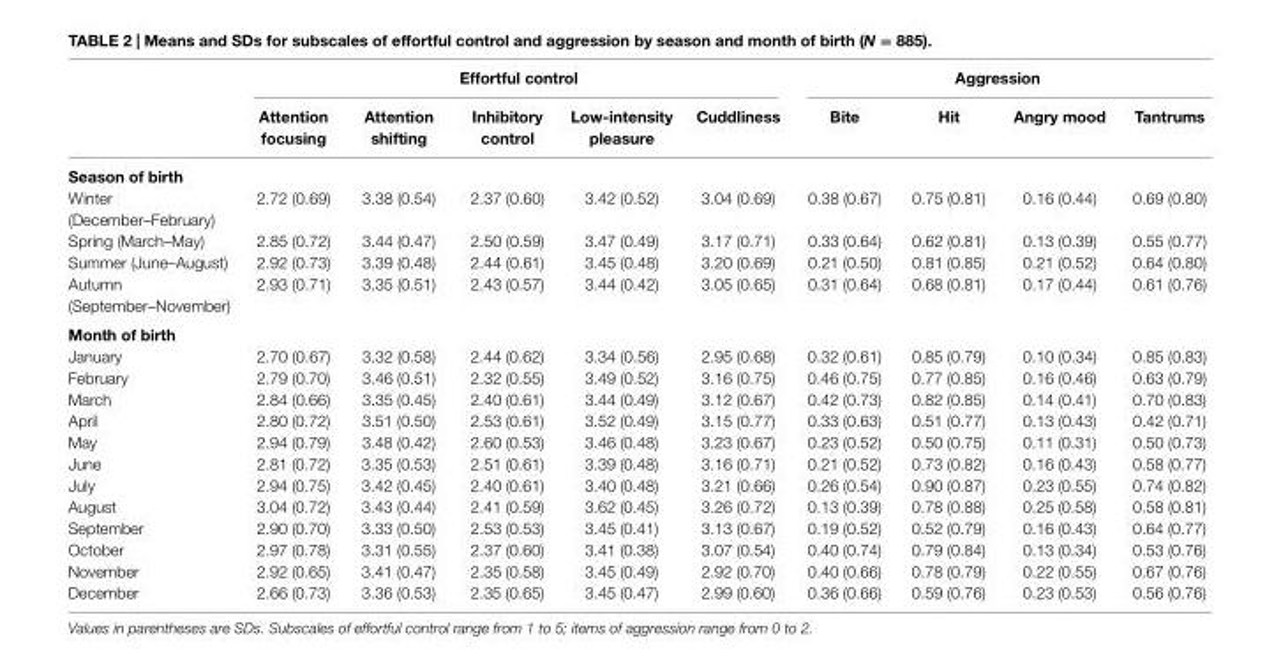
<table><thead><tr><td rowspan="2"></td><td colspan="5">effortful control</td><td colspan="4">aggression</td></tr><tr><td>attention focusing</td><td>attention shifting</td><td>inhibitory control</td><td>low-intensity pleasure</td><td>cuddliness</td><td>Bite</td><td>hit</td><td>angry mood</td><td>Tantrums</td></tr></thead><tbody><tr><td colspan="10">season of birth</td></tr><tr><td>Winter (December–February)</td><td>2.72 (0.69)</td><td>3.38 (0.54)</td><td>2.37 (0.60)</td><td>3.42 (0.52)</td><td>3.04 (0.69)</td><td>0.38 (0.67)</td><td>0.75 (0.81)</td><td>0.16 (0.44)</td><td>0.69 (0.80)</td></tr><tr><td>Spring (March–May)</td><td>2.85 (0.72)</td><td>3.44 (0.47)</td><td>2.50 (0.59)</td><td>3.47 (0.49)</td><td>3.17 (0.71)</td><td>0.33 (0.64)</td><td>0.62 (0.81)</td><td>0.13 (0.39)</td><td>0.55 (0.77)</td></tr><tr><td>Summer (June–August)</td><td>2.92 (0.73)</td><td>3.39 (0.48)</td><td>2.44 (0.61)</td><td>3.45 (0.48)</td><td>3.20 (0.69)</td><td>0.21 (0.50)</td><td>0.81 (0.85)</td><td>0.21 (0.52)</td><td>0.64 (0.80)</td></tr><tr><td>Autumn (September–November)</td><td>2.93 (0.71)</td><td>3.35 (0.51)</td><td>2.43 (0.57)</td><td>3.44 (0.42)</td><td>3.05 (0.65)</td><td>0.31 (0.64)</td><td>0.68 (0.81)</td><td>0.17 (0.44)</td><td>0.61 (0.76)</td></tr><tr><td colspan="10">Month of birth</td></tr><tr><td>January</td><td>2.70 (0.67)</td><td>3.32 (0.58)</td><td>2.44 (0.62)</td><td>3.34 (0.56)</td><td>2.95 (0.68)</td><td>0.32 (0.61)</td><td>0.85 (0.79)</td><td>0.10 (0.34)</td><td>0.85 (0.83)</td></tr><tr><td>February</td><td>2.79 (0.70)</td><td>3.46 (0.51)</td><td>2.32 (0.55)</td><td>3.49 (0.52)</td><td>3.16 (0.75)</td><td>0.46 (0.75)</td><td>0.77 (0.85)</td><td>0.16 (0.46)</td><td>0.63 (0.79)</td></tr><tr><td>March</td><td>2.84 (0.66)</td><td>3.35 (0.45)</td><td>2.40 (0.61)</td><td>3.44 (0.49)</td><td>3.12 (0.67)</td><td>0.42 (0.73)</td><td>0.82 (0.85)</td><td>0.14 (0.41)</td><td>0.70 (0.83)</td></tr><tr><td>April</td><td>2.80 (0.72)</td><td>3.51 (0.50)</td><td>2.53 (0.61)</td><td>3.52 (0.49)</td><td>3.15 (0.77)</td><td>0.33 (0.63)</td><td>0.51 (0.77)</td><td>0.13 (0.43)</td><td>0.42 (0.71)</td></tr><tr><td>May</td><td>2.94 (0.79)</td><td>3.48 (0.42)</td><td>2.60 (0.53)</td><td>3.46 (0.48)</td><td>3.23 (0.67)</td><td>0.23 (0.52)</td><td>0.50 (0.75)</td><td>0.11 (0.31)</td><td>0.50 (0.73)</td></tr><tr><td>June</td><td>2.81 (0.72)</td><td>3.35 (0.53)</td><td>2.51 (0.61)</td><td>3.39 (0.48)</td><td>3.16 (0.71)</td><td>0.21 (0.52)</td><td>0.73 (0.82)</td><td>0.16 (0.43)</td><td>0.58 (0.77)</td></tr><tr><td>July</td><td>2.94 (0.75)</td><td>3.42 (0.45)</td><td>2.40 (0.61)</td><td>3.40 (0.48)</td><td>3.21 (0.66)</td><td>0.26 (0.54)</td><td>0.90 (0.87)</td><td>0.23 (0.55)</td><td>0.74 (0.82)</td></tr><tr><td>August</td><td>3.04 (0.72)</td><td>3.43 (0.44)</td><td>2.41 (0.59)</td><td>3.62 (0.45)</td><td>3.26 (0.72)</td><td>0.13 (0.39)</td><td>0.78 (0.88)</td><td>0.25 (0.58)</td><td>0.58 (0.81)</td></tr><tr><td>September</td><td>2.90 (0.70)</td><td>3.33 (0.50)</td><td>2.53 (0.53)</td><td>3.45 (0.41)</td><td>3.13 (0.67)</td><td>0.19 (0.52)</td><td>0.52 (0.79)</td><td>0.16 (0.43)</td><td>0.64 (0.77)</td></tr><tr><td>October</td><td>2.97 (0.78)</td><td>3.31 (0.55)</td><td>2.37 (0.60)</td><td>3.41 (0.38)</td><td>3.07 (0.54)</td><td>0.40 (0.74)</td><td>0.79 (0.84)</td><td>0.13 (0.34)</td><td>0.53 (0.76)</td></tr><tr><td>November</td><td>2.92 (0.65)</td><td>3.41 (0.47)</td><td>2.35 (0.58)</td><td>3.45 (0.49)</td><td>2.92 (0.70)</td><td>0.40 (0.66)</td><td>0.78 (0.79)</td><td>0.22 (0.55)</td><td>0.67 (0.76)</td></tr><tr><td>December</td><td>2.66 (0.73)</td><td>3.36 (0.53)</td><td>2.35 (0.65)</td><td>3.45 (0.47)</td><td>2.99 (0.60)</td><td>0.36 (0.66)</td><td>0.59 (0.76)</td><td>0.23 (0.53)</td><td>0.56 (0.76)</td></tr></tbody></table>